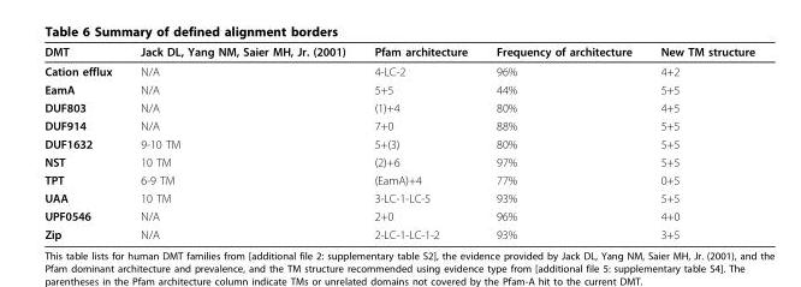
<table><thead><tr><td>DMT</td><td>Jack DL, Yang NM, Saier MH, Jr. (2001)</td><td>Pfam architecture</td><td>Frequency of architecture</td><td>New TM structure</td></tr></thead><tbody><tr><td>Cation efflux</td><td>N/A</td><td>4-LC-2</td><td>96%</td><td>4+2</td></tr><tr><td>EamA</td><td>N/A</td><td>5+5</td><td>44%</td><td>5+5</td></tr><tr><td>DUF803</td><td>N/A</td><td>(1)+4</td><td>80%</td><td>4+5</td></tr><tr><td>DUF914</td><td>N/A</td><td>7+0</td><td>88%</td><td>5+5</td></tr><tr><td>DUF1632</td><td>9-10 TM</td><td>5+(3)</td><td>80%</td><td>5+5</td></tr><tr><td>NST</td><td>10 TM</td><td>(2)+6</td><td>97%</td><td>5+5</td></tr><tr><td>TPT</td><td>6-9 TM</td><td>(EamA)+4</td><td>77%</td><td>0+5</td></tr><tr><td>UAA</td><td>10 TM</td><td>3-LC-1-LC-5</td><td>93%</td><td>5+5</td></tr><tr><td>UPF0546</td><td>N/A</td><td>2+0</td><td>96%</td><td>4+0</td></tr><tr><td>Zip</td><td>N/A</td><td>2-LC-1-LC-1-2</td><td>93%</td><td>3+5</td></tr></tbody></table>